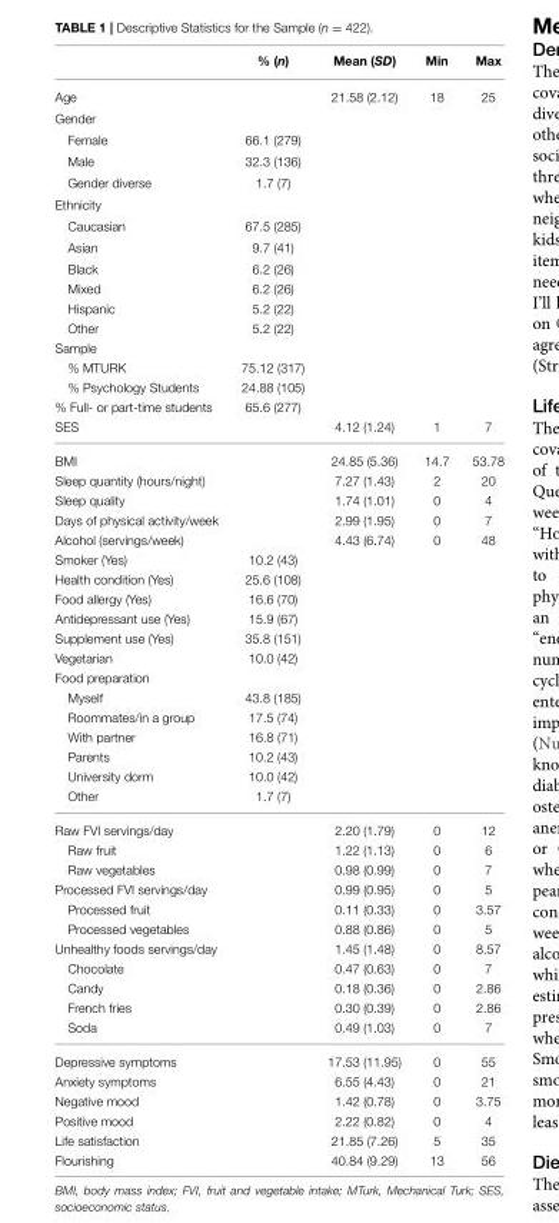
<table><thead><tr><td></td><td>% (n)</td><td>Mean (SD)</td><td>Min</td><td>Max</td></tr></thead><tbody><tr><td>Age</td><td></td><td>21.58 (2.12)</td><td>18</td><td>25</td></tr><tr><td colspan="5">Gender</td></tr><tr><td>Female</td><td>66.1 (279)</td><td></td><td></td><td></td></tr><tr><td>Male</td><td>32.3 (136)</td><td></td><td></td><td></td></tr><tr><td>Gender diverse</td><td>1.7 (7)</td><td></td><td></td><td></td></tr><tr><td colspan="5">Ethnicity</td></tr><tr><td>Caucasian</td><td>67.5 (285)</td><td></td><td></td><td></td></tr><tr><td>Asian</td><td>9.7 (41)</td><td></td><td></td><td></td></tr><tr><td>Black</td><td>6.2 (26)</td><td></td><td></td><td></td></tr><tr><td>Mixed</td><td>6.2 (26)</td><td></td><td></td><td></td></tr><tr><td>Hispanic</td><td>5.2 (22)</td><td></td><td></td><td></td></tr><tr><td>Other</td><td>5.2 (22)</td><td></td><td></td><td></td></tr><tr><td colspan="5">Sample</td></tr><tr><td>% MTURK</td><td>75.12 (317)</td><td></td><td></td><td></td></tr><tr><td>% Psychology Students</td><td>24.88 (105)</td><td></td><td></td><td></td></tr><tr><td>% Full- or part-time students</td><td>65.6 (277)</td><td></td><td></td><td></td></tr><tr><td>SES</td><td></td><td>4.12 (1.24)</td><td>1</td><td>7</td></tr><tr><td>BMI</td><td></td><td>24.85 (5.36)</td><td>14.7</td><td>53.78</td></tr><tr><td>Sleep quantity (hours/night)</td><td></td><td>7.27 (1.43)</td><td>2</td><td>20</td></tr><tr><td>Sleep quality</td><td></td><td>1.74 (1.01)</td><td>0</td><td>4</td></tr><tr><td>Days of physical activity/week</td><td></td><td>2.99 (1.95)</td><td>0</td><td>7</td></tr><tr><td>Alcohol (servings/week)</td><td></td><td>4.43 (6.74)</td><td>0</td><td>48</td></tr><tr><td>Smoker (Yes)</td><td>10.2 (43)</td><td></td><td></td><td></td></tr><tr><td>Health condition (Yes)</td><td>25.6 (108)</td><td></td><td></td><td></td></tr><tr><td>Food allergy (Yes)</td><td>16.6 (70)</td><td></td><td></td><td></td></tr><tr><td>Antidepressant use (Yes)</td><td>15.9 (67)</td><td></td><td></td><td></td></tr><tr><td>Supplement use (Yes)</td><td>35.8 (151)</td><td></td><td></td><td></td></tr><tr><td>Vegetarian</td><td>10.0 (42)</td><td></td><td></td><td></td></tr><tr><td colspan="5">Food preparation</td></tr><tr><td>Myself</td><td>43.8 (185)</td><td></td><td></td><td></td></tr><tr><td>Roommates/in a group</td><td>17.5 (74)</td><td></td><td></td><td></td></tr><tr><td>With partner</td><td>16.8 (71)</td><td></td><td></td><td></td></tr><tr><td>Parents</td><td>10.2 (43)</td><td></td><td></td><td></td></tr><tr><td>University dorm</td><td>10.0 (42)</td><td></td><td></td><td></td></tr><tr><td>Other</td><td>1.7 (7)</td><td></td><td></td><td></td></tr><tr><td>Raw FVI servings/day</td><td></td><td>2.20 (1.79)</td><td>0</td><td>12</td></tr><tr><td>Raw fruit</td><td></td><td>1.22 (1.13)</td><td>0</td><td>6</td></tr><tr><td>Raw vegetables</td><td></td><td>0.98 (0.99)</td><td>0</td><td>7</td></tr><tr><td>Processed FVI servings/day</td><td></td><td>0.99 (0.95)</td><td>0</td><td>5</td></tr><tr><td>Processed fruit</td><td></td><td>0.11 (0.33)</td><td>0</td><td>3.57</td></tr><tr><td>Processed vegetables</td><td></td><td>0.88 (0.86)</td><td>0</td><td>5</td></tr><tr><td>Unhealthy foods servings/day</td><td></td><td>1.45 (1.48)</td><td>0</td><td>8.57</td></tr><tr><td>Chocolate</td><td></td><td>0.47 (0.63)</td><td>0</td><td>7</td></tr><tr><td>Candy</td><td></td><td>0.18 (0.36)</td><td>0</td><td>2.86</td></tr><tr><td>French fries</td><td></td><td>0.30 (0.39)</td><td>0</td><td>2.86</td></tr><tr><td>Soda</td><td></td><td>0.49 (1.03)</td><td>0</td><td>7</td></tr><tr><td>Depressive symptoms</td><td></td><td>17.53 (11.95)</td><td>0</td><td>55</td></tr><tr><td>Anxiety symptoms</td><td></td><td>6.55 (4.43)</td><td>0</td><td>21</td></tr><tr><td>Negative mood</td><td></td><td>1.42 (0.78)</td><td>0</td><td>3.75</td></tr><tr><td>Positive mood</td><td></td><td>2.22 (0.82)</td><td>0</td><td>4</td></tr><tr><td>Life satisfaction</td><td></td><td>21.85 (7.26)</td><td>5</td><td>35</td></tr><tr><td>Flourishing</td><td></td><td>40.84 (9.29)</td><td>13</td><td>56</td></tr></tbody></table>